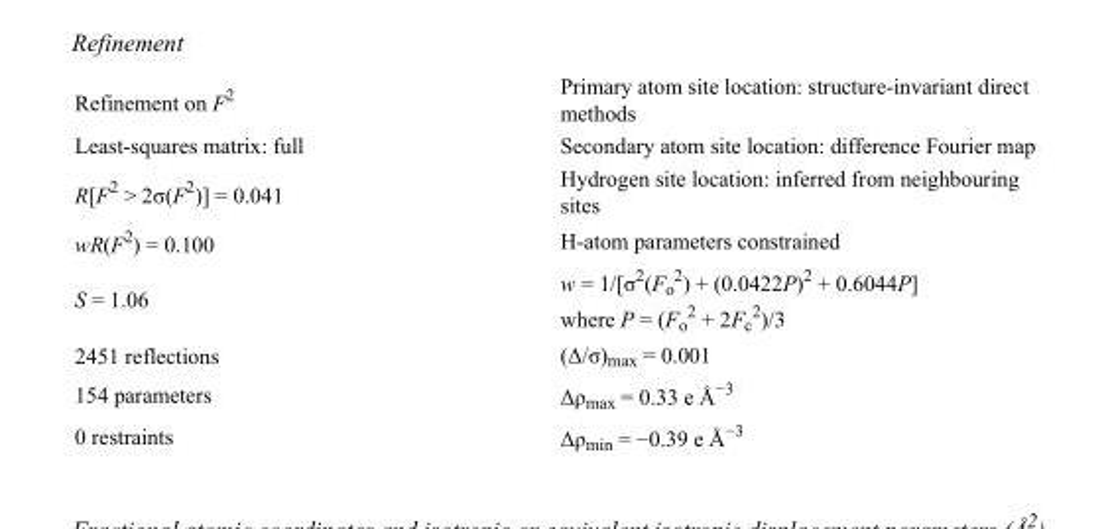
<table><tbody><tr><td>Refinement on F<sup>2</sup></td><td>Primary atom site location: structure-invariant direct methods</td></tr><tr><td>Least-squares matrix: full</td><td>Secondary atom site location: difference Fourier map</td></tr><tr><td>R[F<sup>2</sup> &gt; 2σ(F<sup>2</sup>)] = 0.041</td><td>Hydrogen site location: inferred from neighbouring sites</td></tr><tr><td>wR(F<sup>2</sup>) = 0.100</td><td>H-atom parameters constrained</td></tr><tr><td>S = 1.06</td><td>w = 1/[σ<sup>2</sup>(F<sub>o</sub> <sup>2</sup>) + (0.0422P)<sup>2</sup> + 0.6044P] where P = (F<sub>o</sub> <sup>2</sup> + 2F<sub>c</sub> <sup>2</sup>)/3</td></tr><tr><td>2451 reflections</td><td>(Δ/σ)<sub>max</sub> = 0.001</td></tr><tr><td>154 parameters</td><td>Δρ<sub>max</sub> = 0.33 e Å<sup>−3</sup></td></tr><tr><td>0 restraints</td><td>Δρ<sub>min</sub> = −0.39 e Å<sup>−3</sup></td></tr></tbody></table>